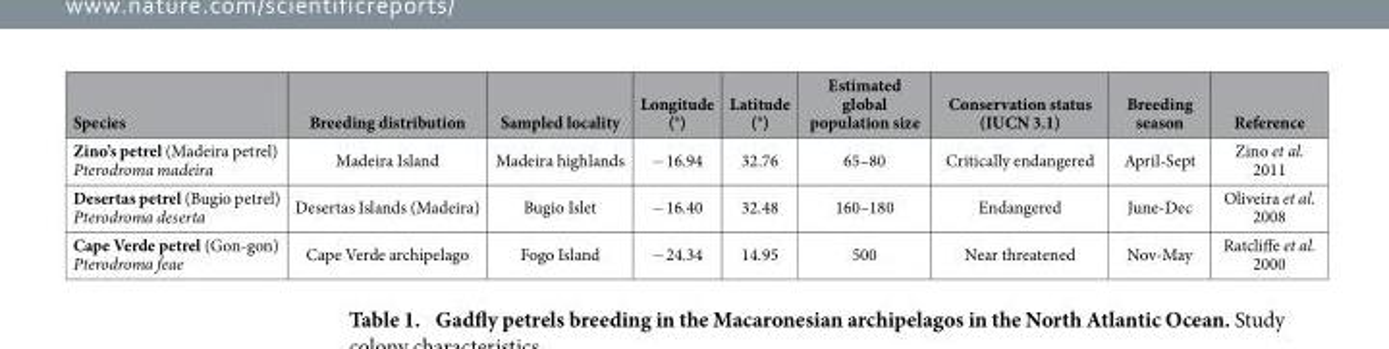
<table><thead><tr><td>Species</td><td>Breeding distribution</td><td>Sampled locality</td><td>Longitude (°)</td><td>Latitude (°)</td><td>Estimated global population size</td><td>Conservation status (IUCN 3.1)</td><td>Breeding season</td><td>Reference</td></tr></thead><tbody><tr><td>Zino’s petrel (Madeira petrel) Pterodroma madeira</td><td>Madeira Island</td><td>Madeira highlands</td><td>− 16.94</td><td>32.76</td><td>65–80</td><td>Critically endangered</td><td>April-Sept</td><td>Zino et al. 2011</td></tr><tr><td>Desertas petrel (Bugio petrel) Pterodroma deserta</td><td>Desertas Islands (Madeira)</td><td>Bugio Islet</td><td>− 16.40</td><td>32.48</td><td>160–180</td><td>Endangered</td><td>June-Dec</td><td>Oliveira et al. 2008</td></tr><tr><td>Cape Verde petrel (Gon-gon) Pterodroma feae</td><td>Cape Verde archipelago</td><td>Fogo Island</td><td>− 24.34</td><td>14.95</td><td>500</td><td>Near threatened</td><td>Nov-May</td><td>Ratcliffe et al. 2000</td></tr></tbody></table>